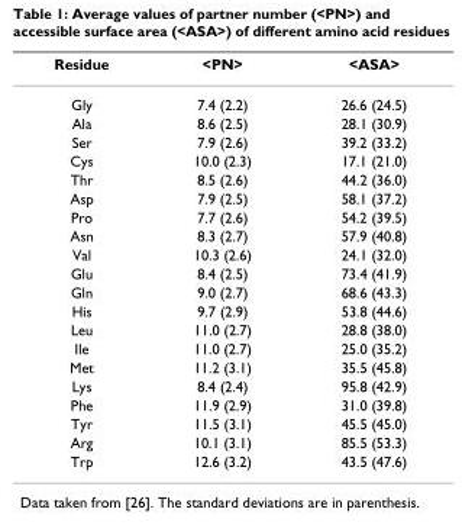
<table><thead><tr><td>Residue</td><td>&lt;PN&gt;</td><td>&lt;ASA&gt;</td></tr></thead><tbody><tr><td>Gly</td><td>7.4 (2.2)</td><td>26.6 (24.5)</td></tr><tr><td>Ala</td><td>8.6 (2.5)</td><td>28.1 (30.9)</td></tr><tr><td>Ser</td><td>7.9 (2.6)</td><td>39.2 (33.2)</td></tr><tr><td>Cys</td><td>10.0 (2.3)</td><td>17.1 (21.0)</td></tr><tr><td>Thr</td><td>8.5 (2.6)</td><td>44.2 (36.0)</td></tr><tr><td>Asp</td><td>7.9 (2.5)</td><td>58.1 (37.2)</td></tr><tr><td>Pro</td><td>7.7 (2.6)</td><td>54.2 (39.5)</td></tr><tr><td>Asn</td><td>8.3 (2.7)</td><td>57.9 (40.8)</td></tr><tr><td>Val</td><td>10.3 (2.6)</td><td>24.1 (32.0)</td></tr><tr><td>Glu</td><td>8.4 (2.5)</td><td>73.4 (41.9)</td></tr><tr><td>Gln</td><td>9.0 (2.7)</td><td>68.6 (43.3)</td></tr><tr><td>His</td><td>9.7 (2.9)</td><td>53.8 (44.6)</td></tr><tr><td>Leu</td><td>11.0 (2.7)</td><td>28.8 (38.0)</td></tr><tr><td>Ile</td><td>11.0 (2.7)</td><td>25.0 (35.2)</td></tr><tr><td>Met</td><td>11.2 (3.1)</td><td>35.5 (45.8)</td></tr><tr><td>Lys</td><td>8.4 (2.4)</td><td>95.8 (42.9)</td></tr><tr><td>Phe</td><td>11.9 (2.9)</td><td>31.0 (39.8)</td></tr><tr><td>Tyr</td><td>11.5 (3.1)</td><td>45.5 (45.0)</td></tr><tr><td>Arg</td><td>10.1 (3.1)</td><td>85.5 (53.3)</td></tr><tr><td>Trp</td><td>12.6 (3.2)</td><td>43.5 (47.6)</td></tr></tbody></table>